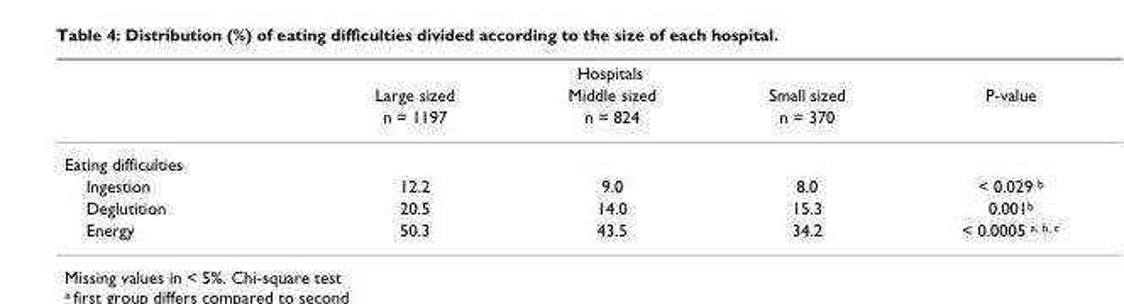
<table><thead><tr><td rowspan="3"></td><td colspan="3">Hospitals</td><td rowspan="3">P-value</td></tr><tr><td rowspan="2">Large sized n = 1197</td><td rowspan="2">Middle sized n = 824</td><td rowspan="2">Small sized n = 370</td></tr><tr></tr></thead><tbody><tr><td colspan="5">Eating difficulties</td></tr><tr><td>Ingestion</td><td>12.2</td><td>9.0</td><td>8.0</td><td>&lt; 0.029 <sup>b</sup></td></tr><tr><td>Deglutition</td><td>20.5</td><td>14.0</td><td>15.3</td><td>0.001<sup>b</sup></td></tr><tr><td>Energy</td><td>50.3</td><td>43.5</td><td>34.2</td><td>&lt; 0.0005 <sup>a, b, c</sup></td></tr></tbody></table>